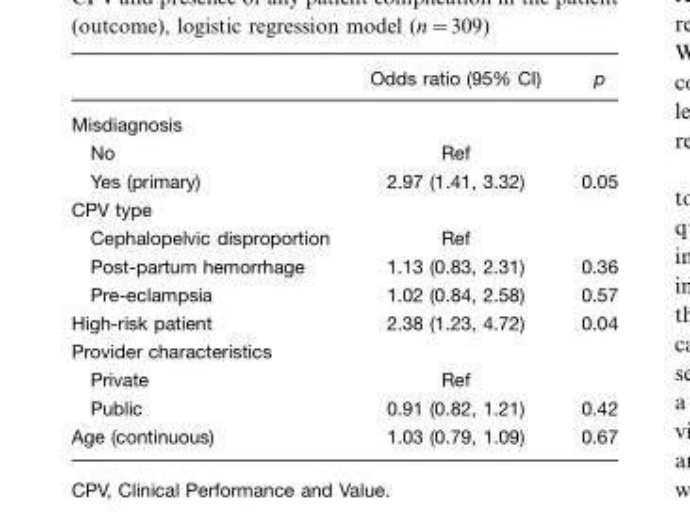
<table><thead><tr><td></td><td>Odds ratio (95% CI)</td><td>p</td></tr></thead><tbody><tr><td colspan="3">Misdiagnosis</td></tr><tr><td>No</td><td>Ref</td><td></td></tr><tr><td>Yes (primary)</td><td>2.97 (1.41, 3.32)</td><td>0.05</td></tr><tr><td colspan="3">CPV type</td></tr><tr><td>Cephalopelvic disproportion</td><td>Ref</td><td></td></tr><tr><td>Post-partum hemorrhage</td><td>1.13 (0.83, 2.31)</td><td>0.36</td></tr><tr><td>Pre-eclampsia</td><td>1.02 (0.84, 2.58)</td><td>0.57</td></tr><tr><td>High-risk patient</td><td>2.38 (1.23, 4.72)</td><td>0.04</td></tr><tr><td colspan="3">Provider characteristics</td></tr><tr><td>Private</td><td>Ref</td><td></td></tr><tr><td>Public</td><td>0.91 (0.82, 1.21)</td><td>0.42</td></tr><tr><td>Age (continuous)</td><td>1.03 (0.79, 1.09)</td><td>0.67</td></tr></tbody></table>